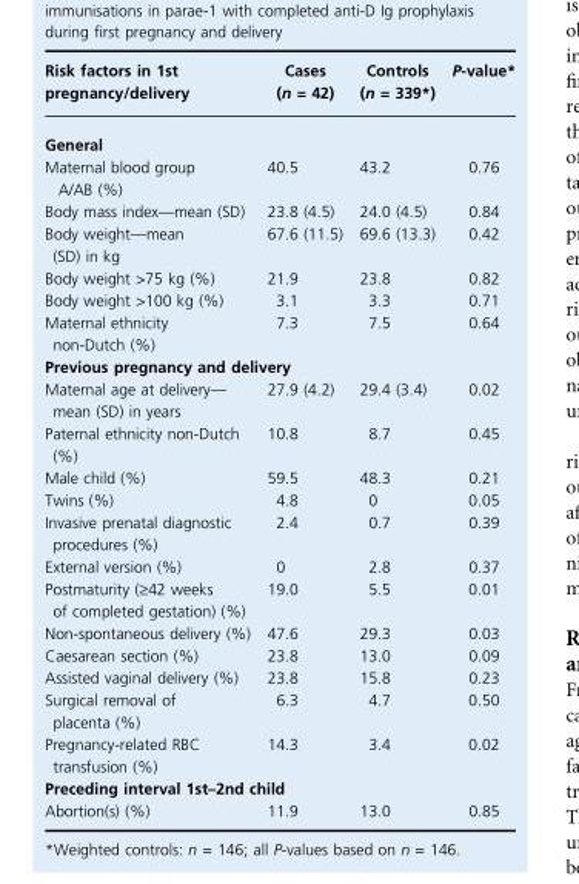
<table><thead><tr><td>Risk factors in 1st pregnancy/delivery</td><td>Cases (n = 42)</td><td>Controls (n = 339*)</td><td>P-value*</td></tr></thead><tbody><tr><td colspan="4">General</td></tr><tr><td>Maternal blood group A/AB (%)</td><td>40.5</td><td>43.2</td><td>0.76</td></tr><tr><td>Body mass index—mean (SD)</td><td>23.8 (4.5)</td><td>24.0 (4.5)</td><td>0.84</td></tr><tr><td>Body weight—mean (SD) in kg</td><td>67.6 (11.5)</td><td>69.6 (13.3)</td><td>0.42</td></tr><tr><td>Body weight &gt;75 kg (%)</td><td>21.9</td><td>23.8</td><td>0.82</td></tr><tr><td>Body weight &gt;100 kg (%)</td><td>3.1</td><td>3.3</td><td>0.71</td></tr><tr><td>Maternal ethnicity non-Dutch (%)</td><td>7.3</td><td>7.5</td><td>0.64</td></tr><tr><td colspan="4">Previous pregnancy and delivery</td></tr><tr><td>Maternal age at delivery— mean (SD) in years</td><td>27.9 (4.2)</td><td>29.4 (3.4)</td><td>0.02</td></tr><tr><td>Paternal ethnicity non-Dutch (%)</td><td>10.8</td><td>8.7</td><td>0.45</td></tr><tr><td>Male child (%)</td><td>59.5</td><td>48.3</td><td>0.21</td></tr><tr><td>Twins (%)</td><td>4.8</td><td>0</td><td>0.05</td></tr><tr><td>Invasive prenatal diagnostic procedures (%)</td><td>2.4</td><td>0.7</td><td>0.39</td></tr><tr><td>External version (%)</td><td>0</td><td>2.8</td><td>0.37</td></tr><tr><td>Postmaturity (‡42 weeks of completed gestation) (%)</td><td>19.0</td><td>5.5</td><td>0.01</td></tr><tr><td>Non-spontaneous delivery (%)</td><td>47.6</td><td>29.3</td><td>0.03</td></tr><tr><td>Caesarean section (%)</td><td>23.8</td><td>13.0</td><td>0.09</td></tr><tr><td>Assisted vaginal delivery (%)</td><td>23.8</td><td>15.8</td><td>0.23</td></tr><tr><td>Surgical removal of placenta (%)</td><td>6.3</td><td>4.7</td><td>0.50</td></tr><tr><td>Pregnancy-related RBC transfusion (%)</td><td>14.3</td><td>3.4</td><td>0.02</td></tr><tr><td colspan="4">Preceding interval 1st–2nd child</td></tr><tr><td>Abortion(s) (%)</td><td>11.9</td><td>13.0</td><td>0.85</td></tr></tbody></table>